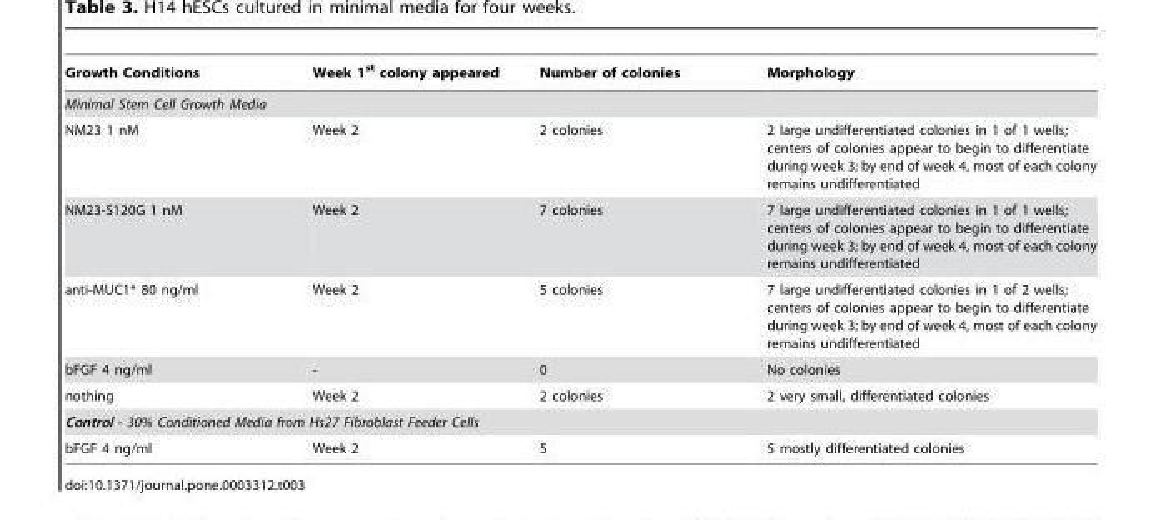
<table><thead><tr><td>Growth Conditions</td><td>Week 1<sup>st</sup> colony appeared</td><td>Number of colonies</td><td>Morphology</td></tr></thead><tbody><tr><td colspan="4">Minimal Stem Cell Growth Media</td></tr><tr><td>NM23 1 nM</td><td>Week 2</td><td>2 colonies</td><td>2 large undifferentiated colonies in 1 of 1 wells; centers of colonies appear to begin to differentiate during week 3; by end of week 4, most of each colony remains undifferentiated</td></tr><tr><td>NM23-S120G 1 nM</td><td>Week 2</td><td>7 colonies</td><td>7 large undifferentiated colonies in 1 of 1 wells; centers of colonies appear to begin to differentiate during week 3; by end of week 4, most of each colony remains undifferentiated</td></tr><tr><td>anti-MUC1* 80 ng/ml</td><td>Week 2</td><td>5 colonies</td><td>7 large undifferentiated colonies in 1 of 2 wells; centers of colonies appear to begin to differentiate during week 3; by end of week 4, most of each colony remains undifferentiated</td></tr><tr><td>bFGF 4 ng/ml</td><td>-</td><td>0</td><td>No colonies</td></tr><tr><td>nothing</td><td>Week 2</td><td>2 colonies</td><td>2 very small, differentiated colonies</td></tr><tr><td colspan="4">Control - 30% Conditioned Media from Hs27 Fibroblast Feeder Cells</td></tr><tr><td>bFGF 4 ng/ml</td><td>Week 2</td><td>5</td><td>5 mostly differentiated colonies</td></tr></tbody></table>